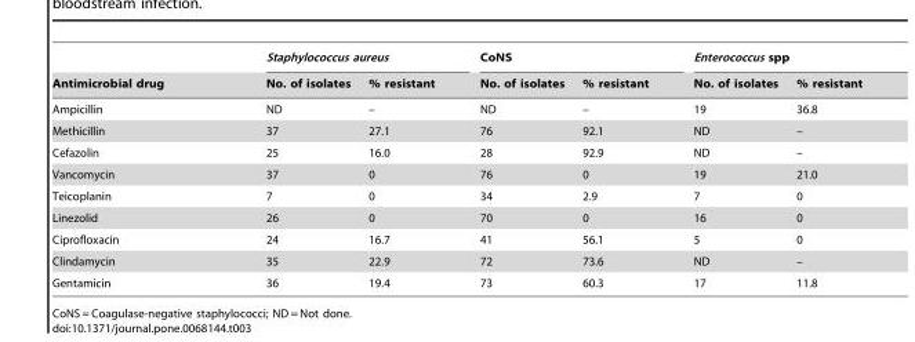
<table><thead><tr><td rowspan="2">Antimicrobial drug</td><td colspan="2">Staphylococcus aureus</td><td colspan="2">CoNS</td><td colspan="2">Enterococcus spp</td></tr><tr><td>No. of isolates</td><td>% resistant</td><td>No. of isolates</td><td>% resistant</td><td>No. of isolates</td><td>% resistant</td></tr></thead><tbody><tr><td>Ampicillin</td><td>ND</td><td>–</td><td>ND</td><td>–</td><td>19</td><td>36.8</td></tr><tr><td>Methicillin</td><td>37</td><td>27.1</td><td>76</td><td>92.1</td><td>ND</td><td>–</td></tr><tr><td>Cefazolin</td><td>25</td><td>16.0</td><td>28</td><td>92.9</td><td>ND</td><td>–</td></tr><tr><td>Vancomycin</td><td>37</td><td>0</td><td>76</td><td>0</td><td>19</td><td>21.0</td></tr><tr><td>Teicoplanin</td><td>7</td><td>0</td><td>34</td><td>2.9</td><td>7</td><td>0</td></tr><tr><td>Linezolid</td><td>26</td><td>0</td><td>70</td><td>0</td><td>16</td><td>0</td></tr><tr><td>Ciprofloxacin</td><td>24</td><td>16.7</td><td>41</td><td>56.1</td><td>5</td><td>0</td></tr><tr><td>Clindamycin</td><td>35</td><td>22.9</td><td>72</td><td>73.6</td><td>ND</td><td>–</td></tr><tr><td>Gentamicin</td><td>36</td><td>19.4</td><td>73</td><td>60.3</td><td>17</td><td>11.8</td></tr></tbody></table>